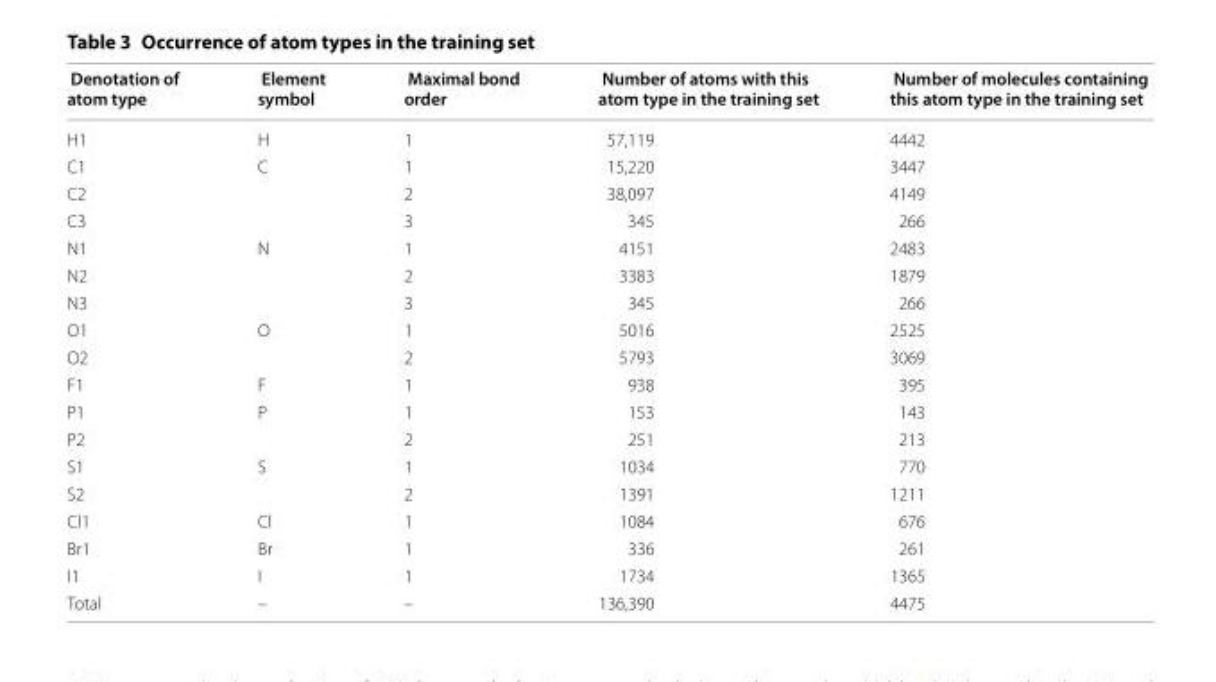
<table><thead><tr><td>Denotation of atom type</td><td>Element symbol</td><td>Maximal bond order</td><td>Number of atoms with this atom type in the training set</td><td>Number of molecules containing this atom type in the training set</td></tr></thead><tbody><tr><td>H1</td><td>H</td><td>1</td><td>57,119</td><td>4442</td></tr><tr><td>C1</td><td>C</td><td>1</td><td>15,220</td><td>3447</td></tr><tr><td>C2</td><td></td><td>2</td><td>38,097</td><td>4149</td></tr><tr><td>C3</td><td></td><td>3</td><td>345</td><td>266</td></tr><tr><td>N1</td><td>N</td><td>1</td><td>4151</td><td>2483</td></tr><tr><td>N2</td><td></td><td>2</td><td>3383</td><td>1879</td></tr><tr><td>N3</td><td></td><td>3</td><td>345</td><td>266</td></tr><tr><td>O1</td><td>O</td><td>1</td><td>5016</td><td>2525</td></tr><tr><td>O2</td><td></td><td>2</td><td>5793</td><td>3069</td></tr><tr><td>F1</td><td>F</td><td>1</td><td>938</td><td>395</td></tr><tr><td>P1</td><td>P</td><td>1</td><td>153</td><td>143</td></tr><tr><td>P2</td><td></td><td>2</td><td>251</td><td>213</td></tr><tr><td>S1</td><td>S</td><td>1</td><td>1034</td><td>770</td></tr><tr><td>S2</td><td></td><td>2</td><td>1391</td><td>1211</td></tr><tr><td>Cl1</td><td>Cl</td><td>1</td><td>1084</td><td>676</td></tr><tr><td>Br1</td><td>Br</td><td>1</td><td>336</td><td>261</td></tr><tr><td>I1</td><td>I</td><td>1</td><td>1734</td><td>1365</td></tr><tr><td>Total</td><td>–</td><td>–</td><td>136,390</td><td>4475</td></tr></tbody></table>